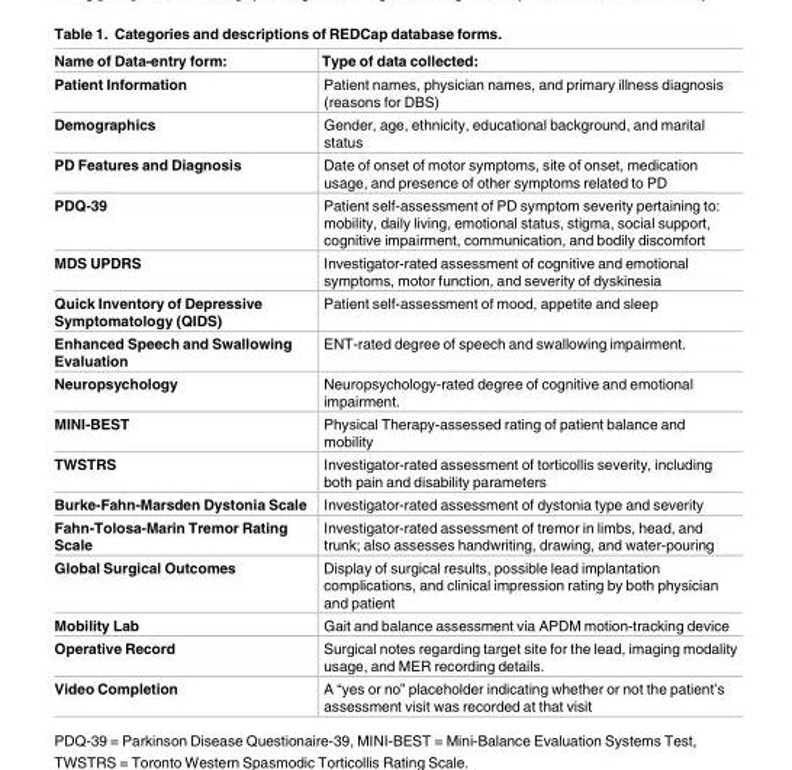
<table><thead><tr><td>Name of Data-entry form:</td><td>Type of data collected:</td></tr></thead><tbody><tr><td>Patient Information</td><td>Patient names, physician names, and primary illness diagnosis (reasons for DBS)</td></tr><tr><td>Demographics</td><td>Gender, age, ethnicity, educational background, and marital status</td></tr><tr><td>PD Features and Diagnosis</td><td>Date of onset of motor symptoms, site of onset, medication usage, and presence of other symptoms related to PD</td></tr><tr><td>PDQ-39</td><td>Patient self-assessment of PD symptom severity pertaining to: mobility, daily living, emotional status, stigma, social support, cognitive impairment, communication, and bodily discomfort</td></tr><tr><td>MDS UPDRS</td><td>Investigator-rated assessment of cognitive and emotional symptoms, motor function, and severity of dyskinesia</td></tr><tr><td>Quick Inventory of Depressive Symptomatology (QIDS)</td><td>Patient self-assessment of mood, appetite and sleep</td></tr><tr><td>Enhanced Speech and Swallowing Evaluation</td><td>ENT-rated degree of speech and swallowing impairment.</td></tr><tr><td>Neuropsychology</td><td>Neuropsychology-rated degree of cognitive and emotional impairment.</td></tr><tr><td>MINI-BEST</td><td>Physical Therapy-assessed rating of patient balance and mobility</td></tr><tr><td>TWSTRS</td><td>Investigator-rated assessment of torticollis severity, including both pain and disability parameters</td></tr><tr><td>Burke-Fahn-Marsden Dystonia Scale</td><td>Investigator-rated assessment of dystonia type and severity</td></tr><tr><td>Fahn-Tolosa-Marin Tremor Rating Scale</td><td>Investigator-rated assessment of tremor in limbs, head, and trunk; also assesses handwriting, drawing, and water-pouring</td></tr><tr><td>Global Surgical Outcomes</td><td>Display of surgical results, possible lead implantation complications, and clinical impression rating by both physician and patient</td></tr><tr><td>Mobility Lab</td><td>Gait and balance assessment via APDM motion-tracking device</td></tr><tr><td>Operative Record</td><td>Surgical notes regarding target site for the lead, imaging modality usage, and MER recording details.</td></tr><tr><td>Video Completion</td><td>A “yes or no” placeholder indicating whether or not the patient’s assessment visit was recorded at that visit</td></tr></tbody></table>